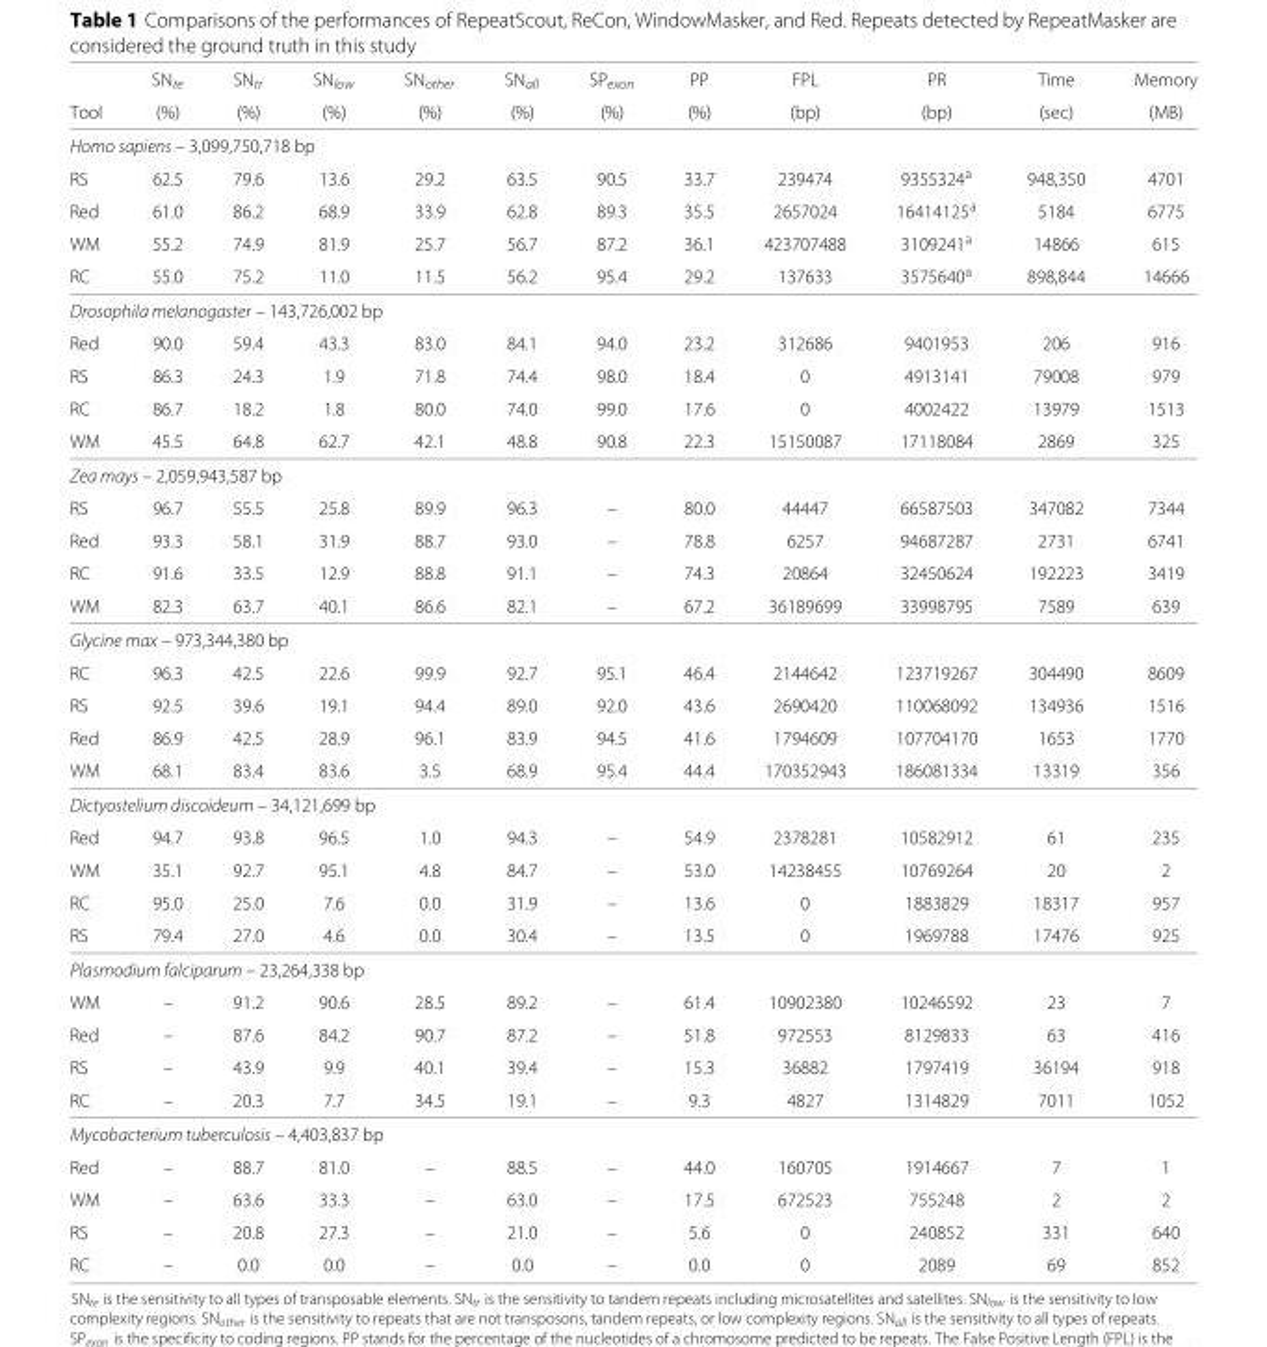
<table><thead><tr><td rowspan="2">Tool</td><td rowspan="2">SN<sub>te</sub> (%)</td><td rowspan="2">SN<sub>tr</sub> (%)</td><td rowspan="2">SN<sub>low</sub> (%)</td><td rowspan="2">SN<sub>other</sub> (%)</td><td rowspan="2">SN<sub>all</sub> (%)</td><td rowspan="2">SP<sub>exon</sub> (%)</td><td rowspan="2">PP (%)</td><td rowspan="2">FPL (bp)</td><td rowspan="2">PR (bp)</td><td rowspan="2">Time (sec)</td><td rowspan="2">Memory (MB)</td></tr><tr></tr></thead><tbody><tr><td colspan="12">Homo sapiens – 3,099,750,718 bp</td></tr><tr><td>RS</td><td>62.5</td><td>79.6</td><td>13.6</td><td>29.2</td><td>63.5</td><td>90.5</td><td>33.7</td><td>239474</td><td>9355324<sup>a</sup></td><td>948,350</td><td>4701</td></tr><tr><td>Red</td><td>61.0</td><td>86.2</td><td>68.9</td><td>33.9</td><td>62.8</td><td>89.3</td><td>35.5</td><td>2657024</td><td>16414125<sup>a</sup></td><td>5184</td><td>6775</td></tr><tr><td>WM</td><td>55.2</td><td>74.9</td><td>81.9</td><td>25.7</td><td>56.7</td><td>87.2</td><td>36.1</td><td>423707488</td><td>3109241<sup>a</sup></td><td>14866</td><td>615</td></tr><tr><td>RC</td><td>55.0</td><td>75.2</td><td>11.0</td><td>11.5</td><td>56.2</td><td>95.4</td><td>29.2</td><td>137633</td><td>3575640<sup>a</sup></td><td>898,844</td><td>14666</td></tr><tr><td colspan="12">Drosophila melanogaster – 143,726,002 bp</td></tr><tr><td>Red</td><td>90.0</td><td>59.4</td><td>43.3</td><td>83.0</td><td>84.1</td><td>94.0</td><td>23.2</td><td>312686</td><td>9401953</td><td>206</td><td>916</td></tr><tr><td>RS</td><td>86.3</td><td>24.3</td><td>1.9</td><td>71.8</td><td>74.4</td><td>98.0</td><td>18.4</td><td>0</td><td>4913141</td><td>79008</td><td>979</td></tr><tr><td>RC</td><td>86.7</td><td>18.2</td><td>1.8</td><td>80.0</td><td>74.0</td><td>99.0</td><td>17.6</td><td>0</td><td>4002422</td><td>13979</td><td>1513</td></tr><tr><td>WM</td><td>45.5</td><td>64.8</td><td>62.7</td><td>42.1</td><td>48.8</td><td>90.8</td><td>22.3</td><td>15150087</td><td>17118084</td><td>2869</td><td>325</td></tr><tr><td colspan="12">Zea mays – 2,059,943,587 bp</td></tr><tr><td>RS</td><td>96.7</td><td>55.5</td><td>25.8</td><td>89.9</td><td>96.3</td><td>–</td><td>80.0</td><td>44447</td><td>66587503</td><td>347082</td><td>7344</td></tr><tr><td>Red</td><td>93.3</td><td>58.1</td><td>31.9</td><td>88.7</td><td>93.0</td><td>–</td><td>78.8</td><td>6257</td><td>94687287</td><td>2731</td><td>6741</td></tr><tr><td>RC</td><td>91.6</td><td>33.5</td><td>12.9</td><td>88.8</td><td>91.1</td><td>–</td><td>74.3</td><td>20864</td><td>32450624</td><td>192223</td><td>3419</td></tr><tr><td>WM</td><td>82.3</td><td>63.7</td><td>40.1</td><td>86.6</td><td>82.1</td><td>–</td><td>67.2</td><td>36189699</td><td>33998795</td><td>7589</td><td>639</td></tr><tr><td colspan="12">Glycine max – 973,344,380 bp</td></tr><tr><td>RC</td><td>96.3</td><td>42.5</td><td>22.6</td><td>99.9</td><td>92.7</td><td>95.1</td><td>46.4</td><td>2144642</td><td>123719267</td><td>304490</td><td>8609</td></tr><tr><td>RS</td><td>92.5</td><td>39.6</td><td>19.1</td><td>94.4</td><td>89.0</td><td>92.0</td><td>43.6</td><td>2690420</td><td>110068092</td><td>134936</td><td>1516</td></tr><tr><td>Red</td><td>86.9</td><td>42.5</td><td>28.9</td><td>96.1</td><td>83.9</td><td>94.5</td><td>41.6</td><td>1794609</td><td>107704170</td><td>1653</td><td>1770</td></tr><tr><td>WM</td><td>68.1</td><td>83.4</td><td>83.6</td><td>3.5</td><td>68.9</td><td>95.4</td><td>44.4</td><td>170352943</td><td>186081334</td><td>13319</td><td>356</td></tr><tr><td colspan="12">Dictyostelium discoideum – 34,121,699 bp</td></tr><tr><td>Red</td><td>94.7</td><td>93.8</td><td>96.5</td><td>1.0</td><td>94.3</td><td>–</td><td>54.9</td><td>2378281</td><td>10582912</td><td>61</td><td>235</td></tr><tr><td>WM</td><td>35.1</td><td>92.7</td><td>95.1</td><td>4.8</td><td>84.7</td><td>–</td><td>53.0</td><td>14238455</td><td>10769264</td><td>20</td><td>2</td></tr><tr><td>RC</td><td>95.0</td><td>25.0</td><td>7.6</td><td>0.0</td><td>31.9</td><td>–</td><td>13.6</td><td>0</td><td>1883829</td><td>18317</td><td>957</td></tr><tr><td>RS</td><td>79.4</td><td>27.0</td><td>4.6</td><td>0.0</td><td>30.4</td><td>–</td><td>13.5</td><td>0</td><td>1969788</td><td>17476</td><td>925</td></tr><tr><td colspan="12">Plasmodium falciparum – 23,264,338 bp</td></tr><tr><td>WM</td><td>–</td><td>91.2</td><td>90.6</td><td>28.5</td><td>89.2</td><td>–</td><td>61.4</td><td>10902380</td><td>10246592</td><td>23</td><td>7</td></tr><tr><td>Red</td><td>–</td><td>87.6</td><td>84.2</td><td>90.7</td><td>87.2</td><td>–</td><td>51.8</td><td>972553</td><td>8129833</td><td>63</td><td>416</td></tr><tr><td>RS</td><td>–</td><td>43.9</td><td>9.9</td><td>40.1</td><td>39.4</td><td>–</td><td>15.3</td><td>36882</td><td>1797419</td><td>36194</td><td>918</td></tr><tr><td>RC</td><td>–</td><td>20.3</td><td>7.7</td><td>34.5</td><td>19.1</td><td>–</td><td>9.3</td><td>4827</td><td>1314829</td><td>7011</td><td>1052</td></tr><tr><td colspan="12">Mycobacterium tuberculosis – 4,403,837 bp</td></tr><tr><td>Red</td><td>–</td><td>88.7</td><td>81.0</td><td>–</td><td>88.5</td><td>–</td><td>44.0</td><td>160705</td><td>1914667</td><td>7</td><td>1</td></tr><tr><td>WM</td><td>–</td><td>63.6</td><td>33.3</td><td>–</td><td>63.0</td><td>–</td><td>17.5</td><td>672523</td><td>755248</td><td>2</td><td>2</td></tr><tr><td>RS</td><td>–</td><td>20.8</td><td>27.3</td><td>–</td><td>21.0</td><td>–</td><td>5.6</td><td>0</td><td>240852</td><td>331</td><td>640</td></tr><tr><td>RC</td><td>–</td><td>0.0</td><td>0.0</td><td>–</td><td>0.0</td><td>–</td><td>0.0</td><td>0</td><td>2089</td><td>69</td><td>852</td></tr></tbody></table>